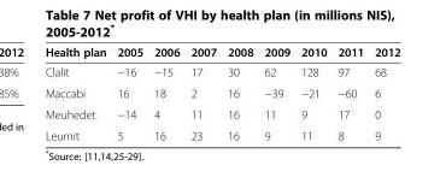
<table><thead><tr><td>Health plan</td><td>2005</td><td>2006</td><td>2007</td><td>2008</td><td>2009</td><td>2010</td><td>2011</td><td>2012</td></tr></thead><tbody><tr><td>Clalit</td><td>−16</td><td>−15</td><td>17</td><td>30</td><td>62</td><td>128</td><td>97</td><td>68</td></tr><tr><td>Maccabi</td><td>16</td><td>18</td><td>2</td><td>16</td><td>−39</td><td>−21</td><td>−60</td><td>6</td></tr><tr><td>Meuhedet</td><td>−14</td><td>4</td><td>11</td><td>16</td><td>11</td><td>9</td><td>17</td><td>0</td></tr><tr><td>Leumit</td><td>5</td><td>16</td><td>23</td><td>16</td><td>9</td><td>11</td><td>8</td><td>9</td></tr></tbody></table>